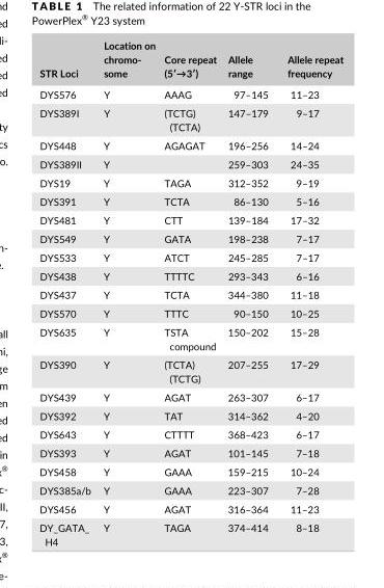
<table><thead><tr><td>STR Loci</td><td>Location on chromo- some</td><td>Core repeat (5′→3′)</td><td>Allele range</td><td>Allele repeat frequency</td></tr></thead><tbody><tr><td>DYS576</td><td>Y</td><td>AAAG</td><td>97–145</td><td>11–23</td></tr><tr><td>DYS389I</td><td>Y</td><td>(TCTG) (TCTA)</td><td>147–179</td><td>9–17</td></tr><tr><td>DYS448</td><td>Y</td><td>AGAGAT</td><td>196–256</td><td>14–24</td></tr><tr><td>DYS389II</td><td>Y</td><td></td><td>259–303</td><td>24–35</td></tr><tr><td>DYS19</td><td>Y</td><td>TAGA</td><td>312–352</td><td>9–19</td></tr><tr><td>DYS391</td><td>Y</td><td>TCTA</td><td>86–130</td><td>5–16</td></tr><tr><td>DYS481</td><td>Y</td><td>CTT</td><td>139–184</td><td>17–32</td></tr><tr><td>DYS549</td><td>Y</td><td>GATA</td><td>198–238</td><td>7–17</td></tr><tr><td>DYS533</td><td>Y</td><td>ATCT</td><td>245–285</td><td>7–17</td></tr><tr><td>DYS438</td><td>Y</td><td>TTTTC</td><td>293–343</td><td>6–16</td></tr><tr><td>DYS437</td><td>Y</td><td>TCTA</td><td>344–380</td><td>11–18</td></tr><tr><td>DYS570</td><td>Y</td><td>TTTC</td><td>90–150</td><td>10–25</td></tr><tr><td>DYS635</td><td>Y</td><td>TSTA compound</td><td>150–202</td><td>15–28</td></tr><tr><td>DYS390</td><td>Y</td><td>(TCTA) (TCTG)</td><td>207–255</td><td>17–29</td></tr><tr><td>DYS439</td><td>Y</td><td>AGAT</td><td>263–307</td><td>6–17</td></tr><tr><td>DYS392</td><td>Y</td><td>TAT</td><td>314–362</td><td>4–20</td></tr><tr><td>DYS643</td><td>Y</td><td>CTTTT</td><td>368–423</td><td>6–17</td></tr><tr><td>DYS393</td><td>Y</td><td>AGAT</td><td>101–145</td><td>7–18</td></tr><tr><td>DYS458</td><td>Y</td><td>GAAA</td><td>159–215</td><td>10–24</td></tr><tr><td>DYS385a/b</td><td>Y</td><td>GAAA</td><td>223–307</td><td>7–28</td></tr><tr><td>DYS456</td><td>Y</td><td>AGAT</td><td>316–364</td><td>11–23</td></tr><tr><td>DY_GATA_ H4</td><td>Y</td><td>TAGA</td><td>374–414</td><td>8–18</td></tr></tbody></table>